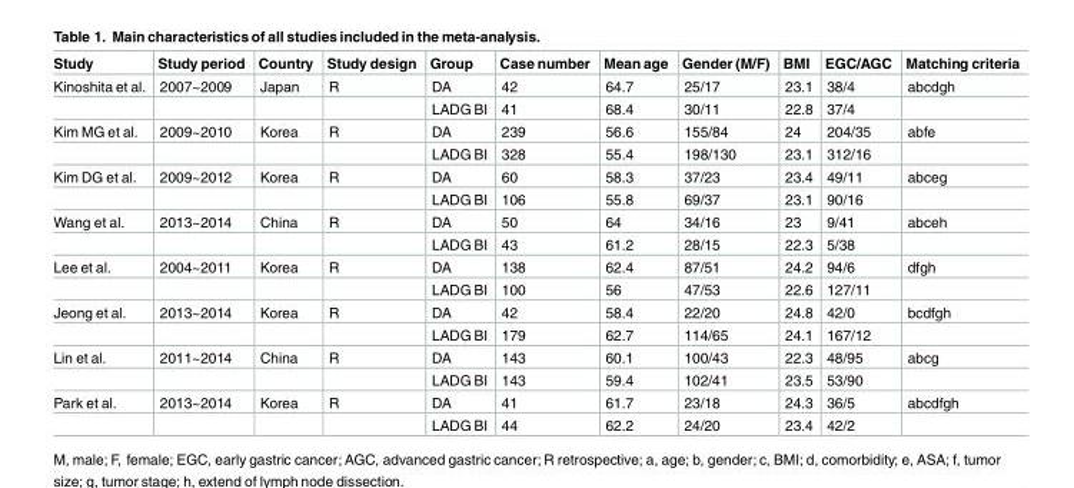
<table><thead><tr><td>Study</td><td>Study period</td><td>Country</td><td>Study design</td><td>Group</td><td>Case number</td><td>Mean age</td><td>Gender (M/F)</td><td>BMI</td><td>EGC/AGC</td><td>Matching criteria</td></tr></thead><tbody><tr><td rowspan="2">Kinoshita et al.</td><td>2007~2009</td><td>Japan</td><td>R</td><td>DA</td><td>42</td><td>64.7</td><td>25/17</td><td>23.1</td><td>38/4</td><td>abcdgh</td></tr><tr><td></td><td></td><td></td><td>LADG BI</td><td>41</td><td>68.4</td><td>30/11</td><td>22.8</td><td>37/4</td><td></td></tr><tr><td rowspan="2">Kim MG et al.</td><td>2009~2010</td><td>Korea</td><td>R</td><td>DA</td><td>239</td><td>56.6</td><td>155/84</td><td>24</td><td>204/35</td><td>abfe</td></tr><tr><td></td><td></td><td></td><td>LADG BI</td><td>328</td><td>55.4</td><td>198/130</td><td>23.1</td><td>312/16</td><td></td></tr><tr><td rowspan="2">Kim DG et al.</td><td>2009~2012</td><td>Korea</td><td>R</td><td>DA</td><td>60</td><td>58.3</td><td>37/23</td><td>23.4</td><td>49/11</td><td>abceg</td></tr><tr><td></td><td></td><td></td><td>LADG BI</td><td>106</td><td>55.8</td><td>69/37</td><td>23.1</td><td>90/16</td><td></td></tr><tr><td rowspan="2">Wang et al.</td><td>2013~2014</td><td>China</td><td>R</td><td>DA</td><td>50</td><td>64</td><td>34/16</td><td>23</td><td>9/41</td><td>abceh</td></tr><tr><td></td><td></td><td></td><td>LADG BI</td><td>43</td><td>61.2</td><td>28/15</td><td>22.3</td><td>5/38</td><td></td></tr><tr><td rowspan="2">Lee et al.</td><td>2004~2011</td><td>Korea</td><td>R</td><td>DA</td><td>138</td><td>62.4</td><td>87/51</td><td>24.2</td><td>94/6</td><td>dfgh</td></tr><tr><td></td><td></td><td></td><td>LADG BI</td><td>100</td><td>56</td><td>47/53</td><td>22.6</td><td>127/11</td><td></td></tr><tr><td rowspan="2">Jeong et al.</td><td>2013~2014</td><td>Korea</td><td>R</td><td>DA</td><td>42</td><td>58.4</td><td>22/20</td><td>24.8</td><td>42/0</td><td>bcdfgh</td></tr><tr><td></td><td></td><td></td><td>LADG BI</td><td>179</td><td>62.7</td><td>114/65</td><td>24.1</td><td>167/12</td><td></td></tr><tr><td rowspan="2">Lin et al.</td><td>2011~2014</td><td>China</td><td>R</td><td>DA</td><td>143</td><td>60.1</td><td>100/43</td><td>22.3</td><td>48/95</td><td>abcg</td></tr><tr><td></td><td></td><td></td><td>LADG BI</td><td>143</td><td>59.4</td><td>102/41</td><td>23.5</td><td>53/90</td><td></td></tr><tr><td rowspan="2">Park et al.</td><td>2013~2014</td><td>Korea</td><td>R</td><td>DA</td><td>41</td><td>61.7</td><td>23/18</td><td>24.3</td><td>36/5</td><td>abcdfgh</td></tr><tr><td></td><td></td><td></td><td>LADG BI</td><td>44</td><td>62.2</td><td>24/20</td><td>23.4</td><td>42/2</td><td></td></tr></tbody></table>